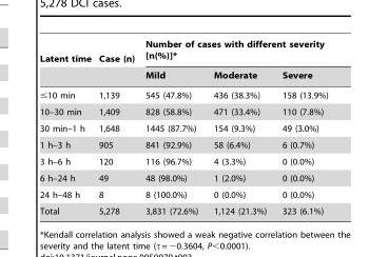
<table><thead><tr><td rowspan="2">Latent time</td><td rowspan="2">Case (n)</td><td colspan="3">Number of cases with different severity [n(%)]*</td></tr><tr><td>Mild</td><td>Moderate</td><td>Severe</td></tr></thead><tbody><tr><td>≤10 min</td><td>1,139</td><td>545 (47.8%)</td><td>436 (38.3%)</td><td>158 (13.9%)</td></tr><tr><td>10–30 min</td><td>1,409</td><td>828 (58.8%)</td><td>471 (33.4%)</td><td>110 (7.8%)</td></tr><tr><td>30 min–1 h</td><td>1,648</td><td>1445 (87.7%)</td><td>154 (9.3%)</td><td>49 (3.0%)</td></tr><tr><td>1 h–3 h</td><td>905</td><td>841 (92.9%)</td><td>58 (6.4%)</td><td>6 (0.7%)</td></tr><tr><td>3 h–6 h</td><td>120</td><td>116 (96.7%)</td><td>4 (3.3%)</td><td>0 (0.0%)</td></tr><tr><td>6 h–24 h</td><td>49</td><td>48 (98.0%)</td><td>1 (2.0%)</td><td>0 (0.0%)</td></tr><tr><td>24 h–48 h</td><td>8</td><td>8 (100.0%)</td><td>0 (0.0%)</td><td>0 (0.0%)</td></tr><tr><td>Total</td><td>5,278</td><td>3,831 (72.6%)</td><td>1,124 (21.3%)</td><td>323 (6.1%)</td></tr></tbody></table>